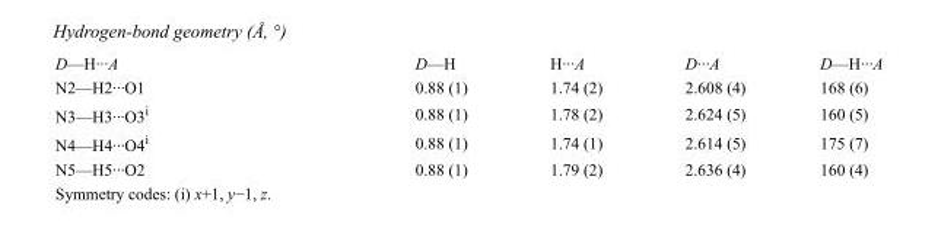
<table><tbody><tr><td>D—H···A</td><td>D—H</td><td>H···A</td><td>D···A</td><td>D—H···A</td></tr><tr><td>N2—H2···O1</td><td>0.88 (1)</td><td>1.74 (2)</td><td>2.608 (4)</td><td>168 (6)</td></tr><tr><td>N3—H3···O3<sup>i</sup></td><td>0.88 (1)</td><td>1.78 (2)</td><td>2.624 (5)</td><td>160 (5)</td></tr><tr><td>N4—H4···O4<sup>i</sup></td><td>0.88 (1)</td><td>1.74 (1)</td><td>2.614 (5)</td><td>175 (7)</td></tr><tr><td>N5—H5···O2</td><td>0.88 (1)</td><td>1.79 (2)</td><td>2.636 (4)</td><td>160 (4)</td></tr></tbody></table>